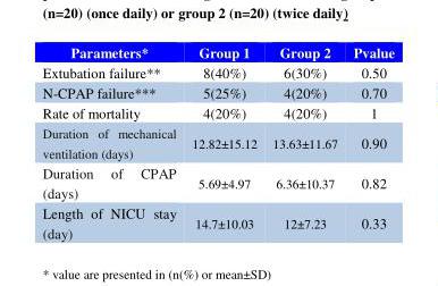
<table><thead><tr><td>Parameters*</td><td>Group 1</td><td>Group 2</td><td>Pvalue</td></tr></thead><tbody><tr><td>Extubation failure**</td><td>8(40%)</td><td>6(30%)</td><td>0.50</td></tr><tr><td>N-CPAP failure***</td><td>5(25%)</td><td>4(20%)</td><td>0.70</td></tr><tr><td>Rate of mortality</td><td>4(20%)</td><td>4(20%)</td><td>1</td></tr><tr><td>Duration of mechanical ventilation (days)</td><td>12.82±15.12</td><td>13.63±11.67</td><td>0.90</td></tr><tr><td>Duration of CPAP (days)</td><td>5.69±4.97</td><td>6.36±10.37</td><td>0.82</td></tr><tr><td>Length of NICU stay (day)</td><td>14.7±10.03</td><td>12±7.23</td><td>0.33</td></tr></tbody></table>